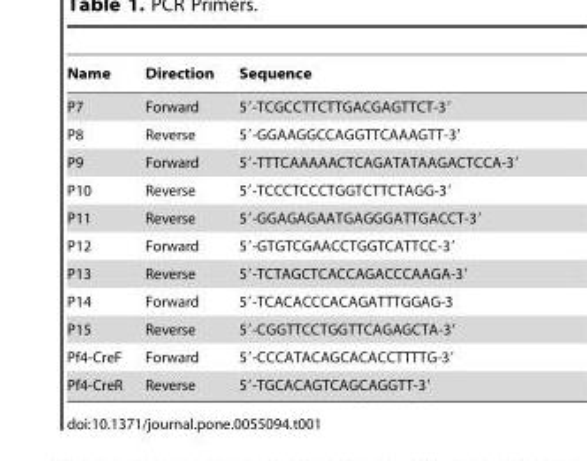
<table><thead><tr><td>Name</td><td>Direction</td><td>Sequence</td></tr></thead><tbody><tr><td>P7</td><td>Forward</td><td>5′-TCGCCTTCTTGACGAGTTCT-3′</td></tr><tr><td>P8</td><td>Reverse</td><td>5′-GGAAGGCCAGGTTCAAAGTT-3′</td></tr><tr><td>P9</td><td>Forward</td><td>5′-TTTCAAAAACTCAGATATAAGACTCCA-3′</td></tr><tr><td>P10</td><td>Reverse</td><td>5′-TCCCTCCCTGGTCTTCTAGG-3′</td></tr><tr><td>P11</td><td>Reverse</td><td>5′-GGAGAGAATGAGGGATTGACCT-3′</td></tr><tr><td>P12</td><td>Forward</td><td>5′-GTGTCGAACCTGGTCATTCC-3′</td></tr><tr><td>P13</td><td>Reverse</td><td>5′-TCTAGCTCACCAGACCCAAGA-3′</td></tr><tr><td>P14</td><td>Forward</td><td>5′-TCACACCCACAGATTTGGAG-3</td></tr><tr><td>P15</td><td>Reverse</td><td>5′-CGGTTCCTGGTTCAGAGCTA-3′</td></tr><tr><td>Pf4-CreF</td><td>Forward</td><td>5′-CCCATACAGCACACCTTTTG-3′</td></tr><tr><td>Pf4-CreR</td><td>Reverse</td><td>5′-TGCACAGTCAGCAGGTT-3′</td></tr></tbody></table>